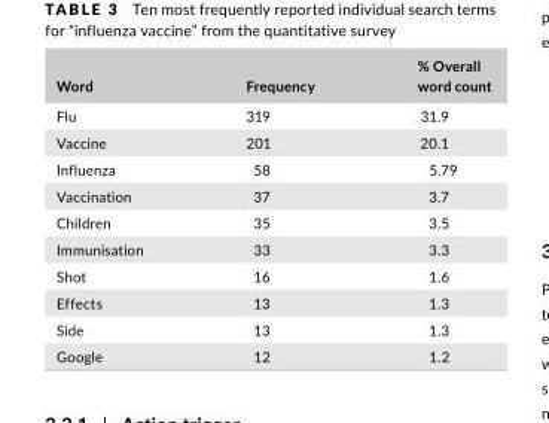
<table><thead><tr><td>Word</td><td>Frequency</td><td>% Overall word count</td></tr></thead><tbody><tr><td>Flu</td><td>319</td><td>31.9</td></tr><tr><td>Vaccine</td><td>201</td><td>20.1</td></tr><tr><td>Influenza</td><td>58</td><td>5.79</td></tr><tr><td>Vaccination</td><td>37</td><td>3.7</td></tr><tr><td>Children</td><td>35</td><td>3.5</td></tr><tr><td>Immunisation</td><td>33</td><td>3.3</td></tr><tr><td>Shot</td><td>16</td><td>1.6</td></tr><tr><td>Effects</td><td>13</td><td>1.3</td></tr><tr><td>Side</td><td>13</td><td>1.3</td></tr><tr><td>Google</td><td>12</td><td>1.2</td></tr></tbody></table>